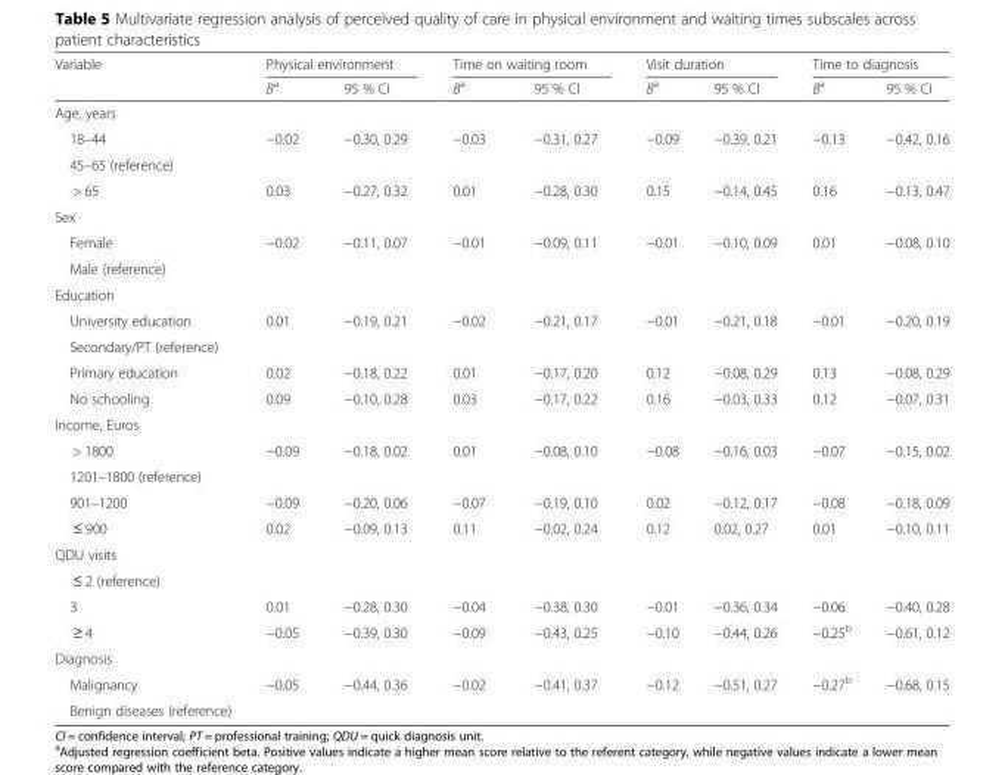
<table><thead><tr><td rowspan="2">Variable</td><td colspan="2">Physical environment</td><td colspan="2">Time on waiting room</td><td colspan="2">Visit duration</td><td colspan="2">Time to diagnosis</td></tr><tr><td>B<sup>a</sup></td><td>95 % CI</td><td>B<sup>a</sup></td><td>95 % CI</td><td>B<sup>a</sup></td><td>95 % CI</td><td>B<sup>a</sup></td><td>95 % CI</td></tr></thead><tbody><tr><td colspan="9">Age, years</td></tr><tr><td>18–44</td><td>−0.02</td><td>−0.30, 0.29</td><td>−0.03</td><td>−0.31, 0.27</td><td>−0.09</td><td>−0.39, 0.21</td><td>−0.13</td><td>−0.42, 0.16</td></tr><tr><td colspan="9">45–65 (reference)</td></tr><tr><td>&gt; 65</td><td>0.03</td><td>−0.27, 0.32</td><td>0.01</td><td>−0.28, 0.30</td><td>0.15</td><td>−0.14, 0.45</td><td>0.16</td><td>−0.13, 0.47</td></tr><tr><td colspan="9">Sex</td></tr><tr><td>Female</td><td>−0.02</td><td>−0.11, 0.07</td><td>−0.01</td><td>−0.09, 0.11</td><td>−0.01</td><td>−0.10, 0.09</td><td>0.01</td><td>−0.08, 0.10</td></tr><tr><td colspan="9">Male (reference)</td></tr><tr><td colspan="9">Education</td></tr><tr><td>University education</td><td>0.01</td><td>−0.19, 0.21</td><td>−0.02</td><td>−0.21, 0.17</td><td>−0.01</td><td>−0.21, 0.18</td><td>−0.01</td><td>−0.20, 0.19</td></tr><tr><td colspan="9">Secondary/PT (reference)</td></tr><tr><td>Primary education</td><td>0.02</td><td>−0.18, 0.22</td><td>0.01</td><td>−0.17, 0.20</td><td>0.12</td><td>−0.08, 0.29</td><td>0.13</td><td>−0.08, 0.29</td></tr><tr><td>No schooling</td><td>0.09</td><td>−0.10, 0.28</td><td>0.03</td><td>−0.17, 0.22</td><td>0.16</td><td>−0.03, 0.33</td><td>0.12</td><td>−0.07, 0.31</td></tr><tr><td colspan="9">Income, Euros</td></tr><tr><td>&gt; 1800</td><td>−0.09</td><td>−0.18, 0.02</td><td>0.01</td><td>−0.08, 0.10</td><td>−0.08</td><td>−0.16, 0.03</td><td>−0.07</td><td>−0.15, 0.02</td></tr><tr><td colspan="9">1201–1800 (reference)</td></tr><tr><td>901–1200</td><td>−0.09</td><td>−0.20, 0.06</td><td>−0.07</td><td>−0.19, 0.10</td><td>0.02</td><td>−0.12, 0.17</td><td>−0.08</td><td>−0.18, 0.09</td></tr><tr><td>≤ 900</td><td>0.02</td><td>−0.09, 0.13</td><td>0.11</td><td>−0.02, 0.24</td><td>0.12</td><td>0.02, 0.27</td><td>0.01</td><td>−0.10, 0.11</td></tr><tr><td colspan="9">QDU visits</td></tr><tr><td colspan="9">≤ 2 (reference)</td></tr><tr><td>3</td><td>0.01</td><td>−0.28, 0.30</td><td>−0.04</td><td>−0.38, 0.30</td><td>−0.01</td><td>−0.36, 0.34</td><td>−0.06</td><td>−0.40, 0.28</td></tr><tr><td>≥ 4</td><td>−0.05</td><td>−0.39, 0.30</td><td>−0.09</td><td>−0.43, 0.25</td><td>−0.10</td><td>−0.44, 0.26</td><td>−0.25<sup>b</sup></td><td>−0.61, 0.12</td></tr><tr><td colspan="9">Diagnosis</td></tr><tr><td>Malignancy</td><td>−0.05</td><td>−0.44, 0.36</td><td>−0.02</td><td>−0.41, 0.37</td><td>−0.12</td><td>−0.51, 0.27</td><td>−0.27<sup>b</sup></td><td>−0.68, 0.15</td></tr><tr><td>Benign diseases (reference)</td><td></td><td></td><td></td><td></td><td></td><td></td><td></td><td></td></tr></tbody></table>